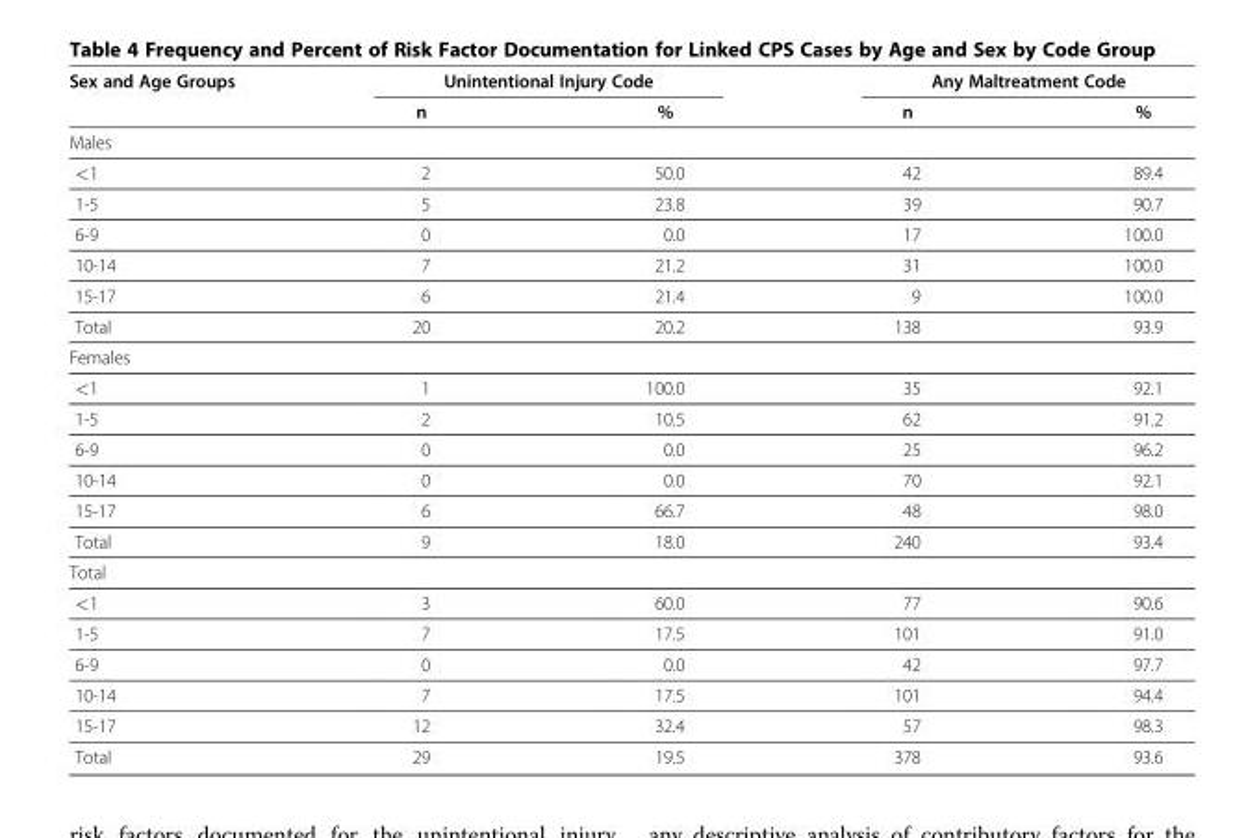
<table><thead><tr><td rowspan="2">Sex and Age Groups</td><td colspan="2">Unintentional Injury Code</td><td colspan="2">Any Maltreatment Code</td></tr><tr><td>n</td><td>%</td><td>n</td><td>%</td></tr></thead><tbody><tr><td colspan="5">Males</td></tr><tr><td>&lt;1</td><td>2</td><td>50.0</td><td>42</td><td>89.4</td></tr><tr><td>1-5</td><td>5</td><td>23.8</td><td>39</td><td>90.7</td></tr><tr><td>6-9</td><td>0</td><td>0.0</td><td>17</td><td>100.0</td></tr><tr><td>10-14</td><td>7</td><td>21.2</td><td>31</td><td>100.0</td></tr><tr><td>15-17</td><td>6</td><td>21.4</td><td>9</td><td>100.0</td></tr><tr><td>Total</td><td>20</td><td>20.2</td><td>138</td><td>93.9</td></tr><tr><td colspan="5">Females</td></tr><tr><td>&lt;1</td><td>1</td><td>100.0</td><td>35</td><td>92.1</td></tr><tr><td>1-5</td><td>2</td><td>10.5</td><td>62</td><td>91.2</td></tr><tr><td>6-9</td><td>0</td><td>0.0</td><td>25</td><td>96.2</td></tr><tr><td>10-14</td><td>0</td><td>0.0</td><td>70</td><td>92.1</td></tr><tr><td>15-17</td><td>6</td><td>66.7</td><td>48</td><td>98.0</td></tr><tr><td>Total</td><td>9</td><td>18.0</td><td>240</td><td>93.4</td></tr><tr><td colspan="5">Total</td></tr><tr><td>&lt;1</td><td>3</td><td>60.0</td><td>77</td><td>90.6</td></tr><tr><td>1-5</td><td>7</td><td>17.5</td><td>101</td><td>91.0</td></tr><tr><td>6-9</td><td>0</td><td>0.0</td><td>42</td><td>97.7</td></tr><tr><td>10-14</td><td>7</td><td>17.5</td><td>101</td><td>94.4</td></tr><tr><td>15-17</td><td>12</td><td>32.4</td><td>57</td><td>98.3</td></tr><tr><td>Total</td><td>29</td><td>19.5</td><td>378</td><td>93.6</td></tr></tbody></table>